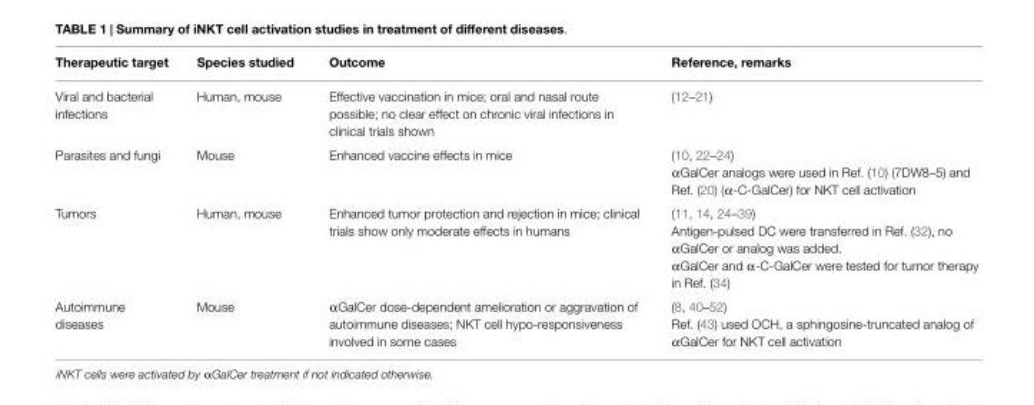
<table><thead><tr><td>Therapeutic target</td><td>Species studied</td><td>Outcome</td><td>Reference, remarks</td></tr></thead><tbody><tr><td>Viral and bacterial infections</td><td>Human, mouse</td><td>Effective vaccination in mice; oral and nasal route possible; no clear effect on chronic viral infections in clinical trials shown</td><td>(12–21)</td></tr><tr><td>Parasites and fungi</td><td>Mouse</td><td>Enhanced vaccine effects in mice</td><td>(10, 22–24) αGalCer analogs were used in Ref. (10) (7DW8–5) and Ref. (20) (α-C-GalCer) for NKT cell activation</td></tr><tr><td>Tumors</td><td>Human, mouse</td><td>Enhanced tumor protection and rejection in mice; clinical trials show only moderate effects in humans</td><td>(11, 14, 24–39) Antigen-pulsed DC were transferred in Ref. (32), no αGalCer or analog was added. αGalCer and α-C-GalCer were tested for tumor therapy in Ref. (34)</td></tr><tr><td>Autoimmune diseases</td><td>Mouse</td><td>αGalCer dose-dependent amelioration or aggravation of autoimmune diseases; NKT cell hypo-responsiveness involved in some cases</td><td>(8, 40–52) Ref. (43) used OCH, a sphingosine-truncated analog of αGalCer for NKT cell activation</td></tr></tbody></table>